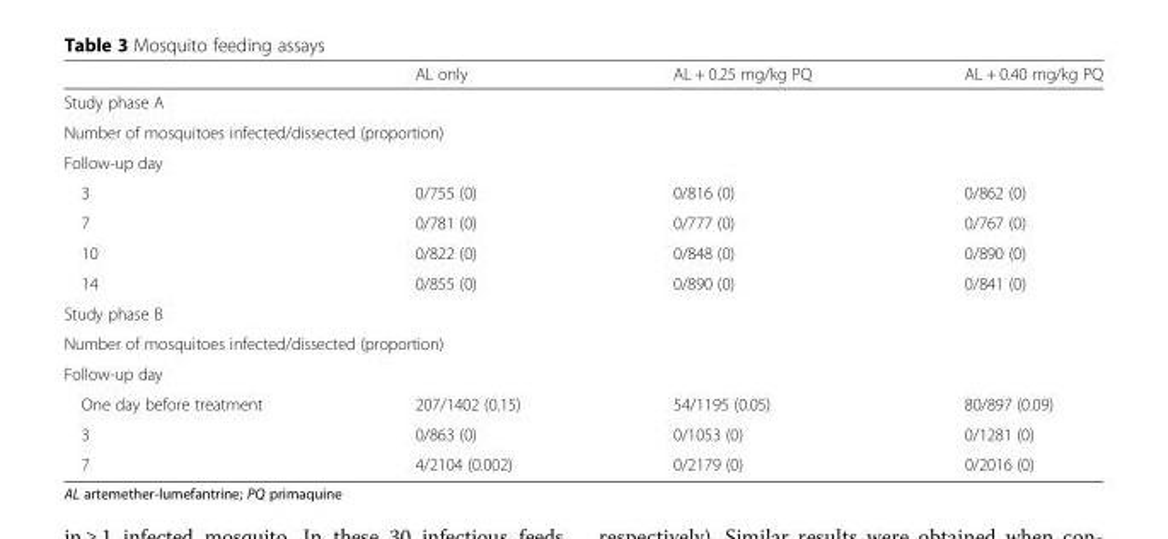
<table><thead><tr><td></td><td>AL only</td><td>AL + 0.25 mg/kg PQ</td><td>AL + 0.40 mg/kg PQ</td></tr></thead><tbody><tr><td colspan="4">Study phase A</td></tr><tr><td colspan="4">Number of mosquitoes infected/dissected (proportion)</td></tr><tr><td colspan="4">Follow-up day</td></tr><tr><td>3</td><td>0/755 (0)</td><td>0/816 (0)</td><td>0/862 (0)</td></tr><tr><td>7</td><td>0/781 (0)</td><td>0/777 (0)</td><td>0/767 (0)</td></tr><tr><td>10</td><td>0/822 (0)</td><td>0/848 (0)</td><td>0/890 (0)</td></tr><tr><td>14</td><td>0/855 (0)</td><td>0/890 (0)</td><td>0/841 (0)</td></tr><tr><td colspan="4">Study phase B</td></tr><tr><td colspan="4">Number of mosquitoes infected/dissected (proportion)</td></tr><tr><td colspan="4">Follow-up day</td></tr><tr><td>One day before treatment</td><td>207/1402 (0.15)</td><td>54/1195 (0.05)</td><td>80/897 (0.09)</td></tr><tr><td>3</td><td>0/863 (0)</td><td>0/1053 (0)</td><td>0/1281 (0)</td></tr><tr><td>7</td><td>4/2104 (0.002)</td><td>0/2179 (0)</td><td>0/2016 (0)</td></tr></tbody></table>